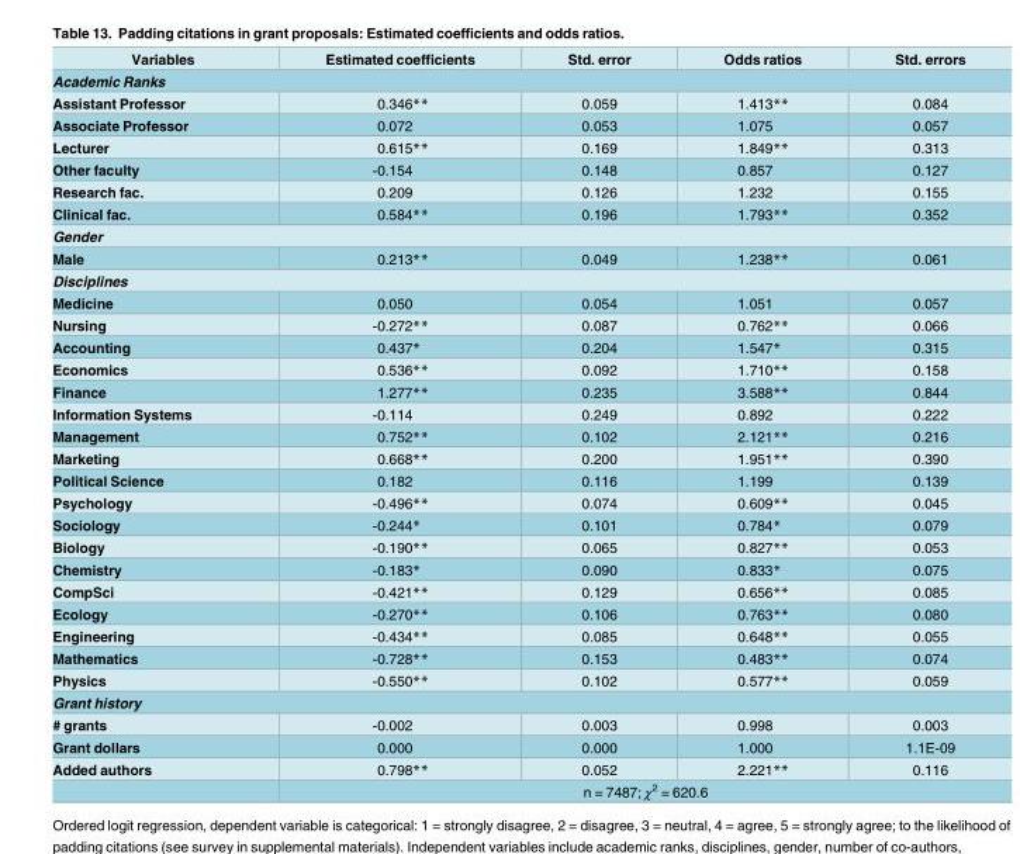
<table><thead><tr><td>Variables</td><td>Estimated coefficients</td><td>Std. error</td><td>Odds ratios</td><td>Std. errors</td></tr></thead><tbody><tr><td colspan="5">Academic Ranks</td></tr><tr><td>Assistant Professor</td><td>0.346**</td><td>0.059</td><td>1.413**</td><td>0.084</td></tr><tr><td>Associate Professor</td><td>0.072</td><td>0.053</td><td>1.075</td><td>0.057</td></tr><tr><td>Lecturer</td><td>0.615**</td><td>0.169</td><td>1.849**</td><td>0.313</td></tr><tr><td>Other faculty</td><td>-0.154</td><td>0.148</td><td>0.857</td><td>0.127</td></tr><tr><td>Research fac.</td><td>0.209</td><td>0.126</td><td>1.232</td><td>0.155</td></tr><tr><td>Clinical fac.</td><td>0.584**</td><td>0.196</td><td>1.793**</td><td>0.352</td></tr><tr><td colspan="5">Gender</td></tr><tr><td>Male</td><td>0.213**</td><td>0.049</td><td>1.238**</td><td>0.061</td></tr><tr><td colspan="5">Disciplines</td></tr><tr><td>Medicine</td><td>0.050</td><td>0.054</td><td>1.051</td><td>0.057</td></tr><tr><td>Nursing</td><td>-0.272**</td><td>0.087</td><td>0.762**</td><td>0.066</td></tr><tr><td>Accounting</td><td>0.437*</td><td>0.204</td><td>1.547*</td><td>0.315</td></tr><tr><td>Economics</td><td>0.536**</td><td>0.092</td><td>1.710**</td><td>0.158</td></tr><tr><td>Finance</td><td>1.277**</td><td>0.235</td><td>3.588**</td><td>0.844</td></tr><tr><td>Information Systems</td><td>-0.114</td><td>0.249</td><td>0.892</td><td>0.222</td></tr><tr><td>Management</td><td>0.752**</td><td>0.102</td><td>2.121**</td><td>0.216</td></tr><tr><td>Marketing</td><td>0.668**</td><td>0.200</td><td>1.951**</td><td>0.390</td></tr><tr><td>Political Science</td><td>0.182</td><td>0.116</td><td>1.199</td><td>0.139</td></tr><tr><td>Psychology</td><td>-0.496**</td><td>0.074</td><td>0.609**</td><td>0.045</td></tr><tr><td>Sociology</td><td>-0.244*</td><td>0.101</td><td>0.784*</td><td>0.079</td></tr><tr><td>Biology</td><td>-0.190**</td><td>0.065</td><td>0.827**</td><td>0.053</td></tr><tr><td>Chemistry</td><td>-0.183*</td><td>0.090</td><td>0.833*</td><td>0.075</td></tr><tr><td>CompSci</td><td>-0.421**</td><td>0.129</td><td>0.656**</td><td>0.085</td></tr><tr><td>Ecology</td><td>-0.270**</td><td>0.106</td><td>0.763**</td><td>0.080</td></tr><tr><td>Engineering</td><td>-0.434**</td><td>0.085</td><td>0.648**</td><td>0.055</td></tr><tr><td>Mathematics</td><td>-0.728**</td><td>0.153</td><td>0.483**</td><td>0.074</td></tr><tr><td>Physics</td><td>-0.550**</td><td>0.102</td><td>0.577**</td><td>0.059</td></tr><tr><td colspan="5">Grant history</td></tr><tr><td># grants</td><td>-0.002</td><td>0.003</td><td>0.998</td><td>0.003</td></tr><tr><td>Grant dollars</td><td>0.000</td><td>0.000</td><td>1.000</td><td>1.1E-09</td></tr><tr><td rowspan="2">Added authors</td><td>0.798**</td><td>0.052</td><td>2.221**</td><td>0.116</td></tr><tr><td colspan="4">n = 7487; χ<sup>2</sup> = 620.6</td></tr></tbody></table>